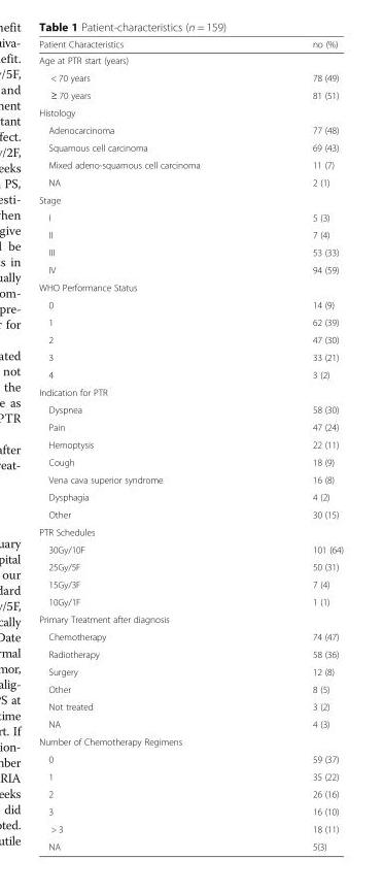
<table><thead><tr><td>Patient Characteristics</td><td>no (%)</td></tr></thead><tbody><tr><td colspan="2">Age at PTR start (years)</td></tr><tr><td>&lt; 70 years</td><td>78 (49)</td></tr><tr><td>≥ 70 years</td><td>81 (51)</td></tr><tr><td colspan="2">Histology</td></tr><tr><td>Adenocarcinoma</td><td>77 (48)</td></tr><tr><td>Squamous cell carcinoma</td><td>69 (43)</td></tr><tr><td>Mixed adeno-squamous cell carcinoma</td><td>11 (7)</td></tr><tr><td>NA</td><td>2 (1)</td></tr><tr><td colspan="2">Stage</td></tr><tr><td>I</td><td>5 (3)</td></tr><tr><td>II</td><td>7 (4)</td></tr><tr><td>III</td><td>53 (33)</td></tr><tr><td>IV</td><td>94 (59)</td></tr><tr><td colspan="2">WHO Performance Status</td></tr><tr><td>0</td><td>14 (9)</td></tr><tr><td>1</td><td>62 (39)</td></tr><tr><td>2</td><td>47 (30)</td></tr><tr><td>3</td><td>33 (21)</td></tr><tr><td>4</td><td>3 (2)</td></tr><tr><td colspan="2">Indication for PTR</td></tr><tr><td>Dyspnea</td><td>58 (30)</td></tr><tr><td>Pain</td><td>47 (24)</td></tr><tr><td>Hemoptysis</td><td>22 (11)</td></tr><tr><td>Cough</td><td>18 (9)</td></tr><tr><td>Vena cava superior syndrome</td><td>16 (8)</td></tr><tr><td>Dysphagia</td><td>4 (2)</td></tr><tr><td>Other</td><td>30 (15)</td></tr><tr><td colspan="2">PTR Schedules</td></tr><tr><td>30Gy/10F</td><td>101 (64)</td></tr><tr><td>25Gy/5F</td><td>50 (31)</td></tr><tr><td>15Gy/3F</td><td>7 (4)</td></tr><tr><td>10Gy/1F</td><td>1 (1)</td></tr><tr><td colspan="2">Primary Treatment after diagnosis</td></tr><tr><td>Chemotherapy</td><td>74 (47)</td></tr><tr><td>Radiotherapy</td><td>58 (36)</td></tr><tr><td>Surgery</td><td>12 (8)</td></tr><tr><td>Other</td><td>8 (5)</td></tr><tr><td>Not treated</td><td>3 (2)</td></tr><tr><td>NA</td><td>4 (3)</td></tr><tr><td colspan="2">Number of Chemotherapy Regimens</td></tr><tr><td>0</td><td>59 (37)</td></tr><tr><td>1</td><td>35 (22)</td></tr><tr><td>2</td><td>26 (16)</td></tr><tr><td>3</td><td>16 (10)</td></tr><tr><td>&gt; 3</td><td>18 (11)</td></tr><tr><td>NA</td><td>5(3)</td></tr></tbody></table>